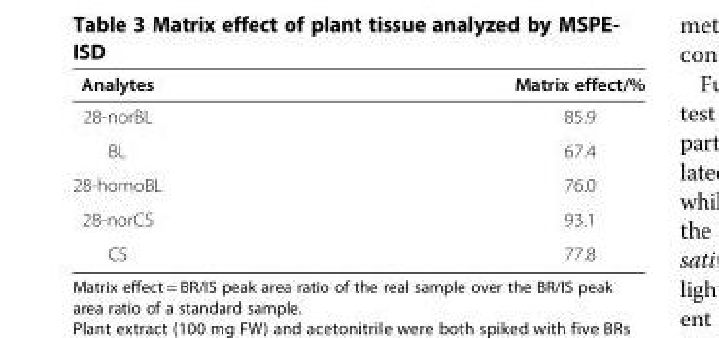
<table><thead><tr><td>Analytes</td><td>Matrix effect/%</td></tr></thead><tbody><tr><td>28-norBL</td><td>85.9</td></tr><tr><td>BL</td><td>67.4</td></tr><tr><td>28-homoBL</td><td>76.0</td></tr><tr><td>28-norCS</td><td>93.1</td></tr><tr><td>CS</td><td>77.8</td></tr></tbody></table>